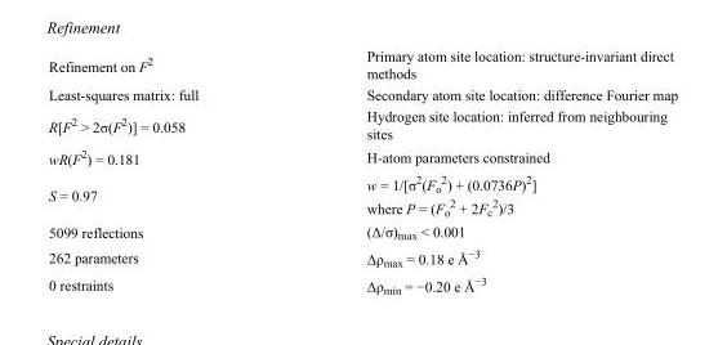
<table><tbody><tr><td>Refinement on F<sup>2</sup></td><td>Primary atom site location: structure-invariant direct methods</td></tr><tr><td>Least-squares matrix: full</td><td>Secondary atom site location: difference Fourier map</td></tr><tr><td>R[F<sup>2</sup> &gt; 2σ(F<sup>2</sup>)] = 0.058</td><td>Hydrogen site location: inferred from neighbouring sites</td></tr><tr><td>wR(F<sup>2</sup>) = 0.181</td><td>H-atom parameters constrained</td></tr><tr><td>S = 0.97</td><td>w = 1/[σ<sup>2</sup>(F<sub>o</sub> <sup>2</sup>) + (0.0736P)<sup>2</sup>] where P = (F<sub>o</sub> <sup>2</sup> + 2F<sub>c</sub> <sup>2</sup>)/3</td></tr><tr><td>5099 reflections</td><td>(Δ/σ)<sub>max</sub> &lt; 0.001</td></tr><tr><td>262 parameters</td><td>Δρ<sub>max</sub> = 0.18 e Å<sup>−3</sup></td></tr><tr><td>0 restraints</td><td>Δρ<sub>min</sub> = −0.20 e Å<sup>−3</sup></td></tr></tbody></table>